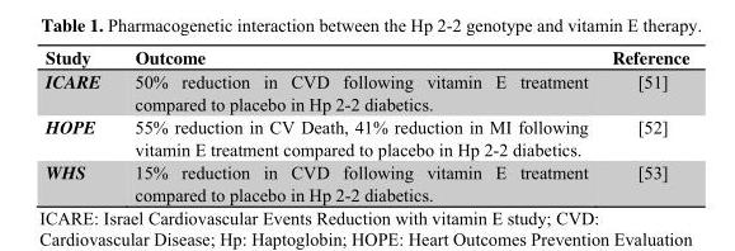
<table><thead><tr><td>Study</td><td>Outcome</td><td>Reference</td></tr></thead><tbody><tr><td>ICARE</td><td>50% reduction in CVD following vitamin E treatment compared to placebo in Hp 2-2 diabetics.</td><td>[51]</td></tr><tr><td>HOPE</td><td>55% reduction in CV Death, 41% reduction in MI following vitamin E treatment compared to placebo in Hp 2-2 diabetics.</td><td>[52]</td></tr><tr><td>WHS</td><td>15% reduction in CVD following vitamin E treatment compared to placebo in Hp 2-2 diabetics.</td><td>[53]</td></tr></tbody></table>